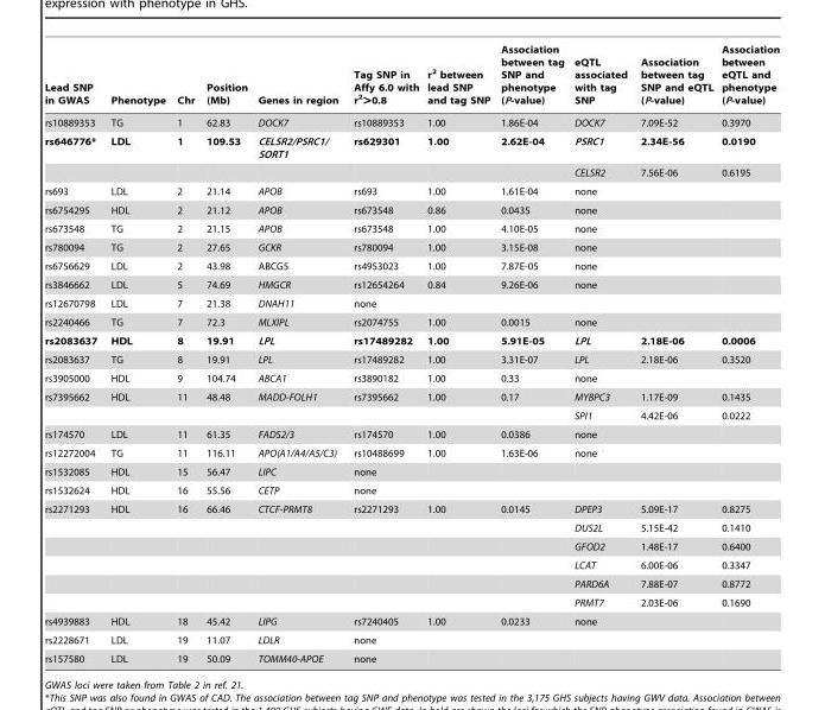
<table><thead><tr><td>Lead SNP in GWAS</td><td>Phenotype</td><td>Chr</td><td>Position (Mb)</td><td>Genes in region</td><td>Tag SNP in Affy 6.0 with r<sup>2</sup>&gt;0.8</td><td>r<sup>2</sup> between lead SNP and tag SNP</td><td>Association between tag SNP and phenotype (P-value)</td><td>eQTL associated with tag SNP</td><td>Association between tag SNP and eQTL (P-value)</td><td>Association between eQTL and phenotype (P-value)</td></tr></thead><tbody><tr><td>rs10889353</td><td>TG</td><td>1</td><td>62.83</td><td>DOCK7</td><td>rs10889353</td><td>1.00</td><td>1.86E-04</td><td>DOCK7</td><td>7.09E-52</td><td>0.3970</td></tr><tr><td rowspan="2">rs646776*</td><td>LDL</td><td>1</td><td>109.53</td><td>CELSR2/PSRC1/ SORT1</td><td>rs629301</td><td>1.00</td><td>2.62E-04</td><td>PSRC1</td><td>2.34E-56</td><td>0.0190</td></tr><tr><td></td><td></td><td></td><td></td><td></td><td></td><td></td><td>CELSR2</td><td>7.56E-06</td><td>0.6195</td></tr><tr><td>rs693</td><td>LDL</td><td>2</td><td>21.14</td><td>APOB</td><td>rs693</td><td>1.00</td><td>1.61E-04</td><td>none</td><td></td><td></td></tr><tr><td>rs6754295</td><td>HDL</td><td>2</td><td>21.12</td><td>APOB</td><td>rs673548</td><td>0.86</td><td>0.0435</td><td>none</td><td></td><td></td></tr><tr><td>rs673548</td><td>TG</td><td>2</td><td>21.15</td><td>APOB</td><td>rs673548</td><td>1.00</td><td>4.10E-05</td><td>none</td><td></td><td></td></tr><tr><td>rs780094</td><td>TG</td><td>2</td><td>27.65</td><td>GCKR</td><td>rs780094</td><td>1.00</td><td>3.15E-08</td><td>none</td><td></td><td></td></tr><tr><td>rs6756629</td><td>LDL</td><td>2</td><td>43.98</td><td>ABCG5</td><td>rs4953023</td><td>1.00</td><td>7.87E-05</td><td>none</td><td></td><td></td></tr><tr><td>rs3846662</td><td>LDL</td><td>5</td><td>74.69</td><td>HMGCR</td><td>rs12654264</td><td>0.84</td><td>9.26E-06</td><td>none</td><td></td><td></td></tr><tr><td>rs12670798</td><td>LDL</td><td>7</td><td>21.38</td><td>DNAH11</td><td>none</td><td></td><td></td><td></td><td></td><td></td></tr><tr><td>rs2240466</td><td>TG</td><td>7</td><td>72.3</td><td>MLXIPL</td><td>rs2074755</td><td>1.00</td><td>0.0015</td><td>none</td><td></td><td></td></tr><tr><td>rs2083637</td><td>HDL</td><td>8</td><td>19.91</td><td>LPL</td><td>rs17489282</td><td>1.00</td><td>5.91E-05</td><td>LPL</td><td>2.18E-06</td><td>0.0006</td></tr><tr><td>rs2083637</td><td>TG</td><td>8</td><td>19.91</td><td>LPL</td><td>rs17489282</td><td>1.00</td><td>3.31E-07</td><td>LPL</td><td>2.18E-06</td><td>0.3520</td></tr><tr><td>rs3905000</td><td>HDL</td><td>9</td><td>104.74</td><td>ABCA1</td><td>rs3890182</td><td>1.00</td><td>0.33</td><td>none</td><td></td><td></td></tr><tr><td rowspan="2">rs7395662</td><td>HDL</td><td>11</td><td>48.48</td><td>MADD-FOLH1</td><td>rs7395662</td><td>1.00</td><td>0.17</td><td>MYBPC3</td><td>1.17E-09</td><td>0.1435</td></tr><tr><td></td><td></td><td></td><td></td><td></td><td></td><td></td><td>SPI1</td><td>4.42E-06</td><td>0.0222</td></tr><tr><td>rs174570</td><td>LDL</td><td>11</td><td>61.35</td><td>FADS2/3</td><td>rs174570</td><td>1.00</td><td>0.0386</td><td>none</td><td></td><td></td></tr><tr><td>rs12272004</td><td>TG</td><td>11</td><td>116.11</td><td>APO(A1/A4/A5/C3)</td><td>rs10488699</td><td>1.00</td><td>1.63E-06</td><td>none</td><td></td><td></td></tr><tr><td>rs1532085</td><td>HDL</td><td>15</td><td>56.47</td><td>LIPC</td><td>none</td><td></td><td></td><td></td><td></td><td></td></tr><tr><td>rs1532624</td><td>HDL</td><td>16</td><td>55.56</td><td>CETP</td><td>none</td><td></td><td></td><td></td><td></td><td></td></tr><tr><td rowspan="6">rs2271293</td><td>HDL</td><td>16</td><td>66.46</td><td>CTCF-PRMT8</td><td>rs2271293</td><td>1.00</td><td>0.0145</td><td>DPEP3</td><td>5.09E-17</td><td>0.8275</td></tr><tr><td></td><td></td><td></td><td></td><td></td><td></td><td></td><td>DUS2L</td><td>5.15E-42</td><td>0.1410</td></tr><tr><td></td><td></td><td></td><td></td><td></td><td></td><td></td><td>GFOD2</td><td>1.48E-17</td><td>0.6400</td></tr><tr><td></td><td></td><td></td><td></td><td></td><td></td><td></td><td>LCAT</td><td>6.00E-06</td><td>0.3347</td></tr><tr><td></td><td></td><td></td><td></td><td></td><td></td><td></td><td>PARD6A</td><td>7.88E-07</td><td>0.8772</td></tr><tr><td></td><td></td><td></td><td></td><td></td><td></td><td></td><td>PRMT7</td><td>2.03E-06</td><td>0.1690</td></tr><tr><td>rs4939883</td><td>HDL</td><td>18</td><td>45.42</td><td>LIPG</td><td>rs7240405</td><td>1.00</td><td>0.0233</td><td>none</td><td></td><td></td></tr><tr><td>rs2228671</td><td>LDL</td><td>19</td><td>11.07</td><td>LDLR</td><td>none</td><td></td><td></td><td></td><td></td><td></td></tr><tr><td>rs157580</td><td>LDL</td><td>19</td><td>50.09</td><td>TOMM40-APOE</td><td>none</td><td></td><td></td><td></td><td></td><td></td></tr></tbody></table>